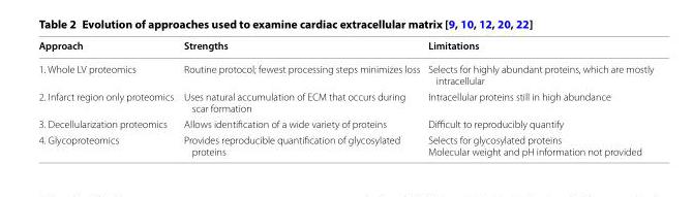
<table><thead><tr><td>Approach</td><td>Strengths</td><td>Limitations</td></tr></thead><tbody><tr><td>1. Whole LV proteomics</td><td>Routine protocol; fewest processing steps minimizes loss</td><td>Selects for highly abundant proteins, which are mostly intracellular</td></tr><tr><td>2. Infarct region only proteomics</td><td>Uses natural accumulation of ECM that occurs during scar formation</td><td>Intracellular proteins still in high abundance</td></tr><tr><td>3. Decellularization proteomics</td><td>Allows identification of a wide variety of proteins</td><td>Difficult to reproducibly quantify</td></tr><tr><td>4. Glycoproteomics</td><td>Provides reproducible quantification of glycosylated proteins</td><td>Selects for glycosylated proteins Molecular weight and pH information not provided</td></tr></tbody></table>